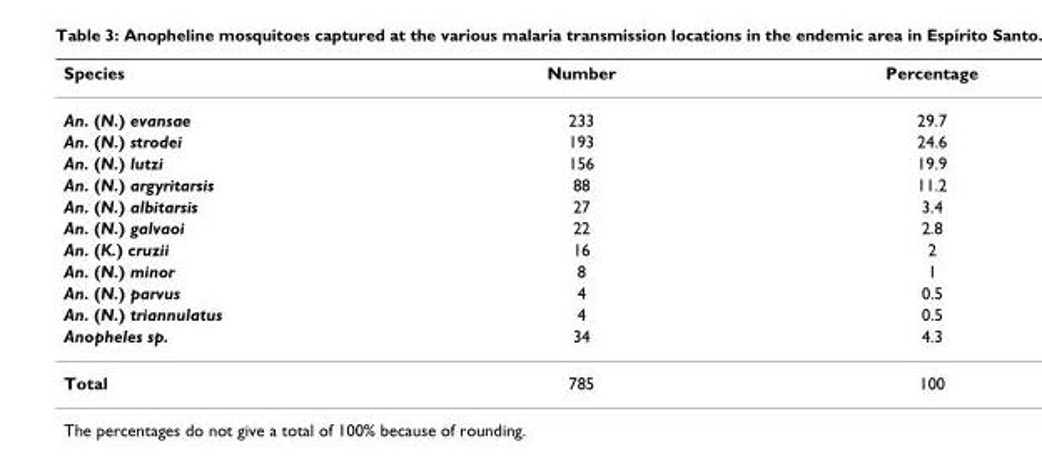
<table><thead><tr><td>Species</td><td>Number</td><td>Percentage</td></tr></thead><tbody><tr><td>An. (N.) evansae</td><td>233</td><td>29.7</td></tr><tr><td>An. (N.) strodei</td><td>193</td><td>24.6</td></tr><tr><td>An. (N.) lutzi</td><td>156</td><td>19.9</td></tr><tr><td>An. (N.) argyritarsis</td><td>88</td><td>11.2</td></tr><tr><td>An. (N.) albitarsis</td><td>27</td><td>3.4</td></tr><tr><td>An. (N.) galvaoi</td><td>22</td><td>2.8</td></tr><tr><td>An. (K.) cruzii</td><td>16</td><td>2</td></tr><tr><td>An. (N.) minor</td><td>8</td><td>1</td></tr><tr><td>An. (N.) parvus</td><td>4</td><td>0.5</td></tr><tr><td>An. (N.) triannulatus</td><td>4</td><td>0.5</td></tr><tr><td>Anopheles sp.</td><td>34</td><td>4.3</td></tr><tr><td>Total</td><td>785</td><td>100</td></tr></tbody></table>